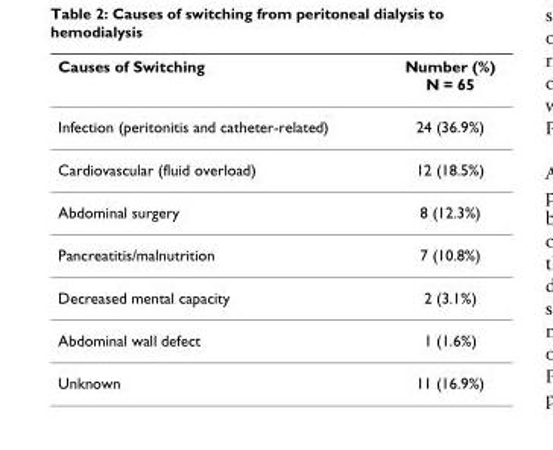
<table><thead><tr><td>Causes of Switching</td><td>Number (%) N = 65</td></tr></thead><tbody><tr><td>Infection (peritonitis and catheter-related)</td><td>24 (36.9%)</td></tr><tr><td>Cardiovascular (fluid overload)</td><td>12 (18.5%)</td></tr><tr><td>Abdominal surgery</td><td>8 (12.3%)</td></tr><tr><td>Pancreatitis/malnutrition</td><td>7 (10.8%)</td></tr><tr><td>Decreased mental capacity</td><td>2 (3.1%)</td></tr><tr><td>Abdominal wall defect</td><td>1 (1.6%)</td></tr><tr><td>Unknown</td><td>11 (16.9%)</td></tr></tbody></table>